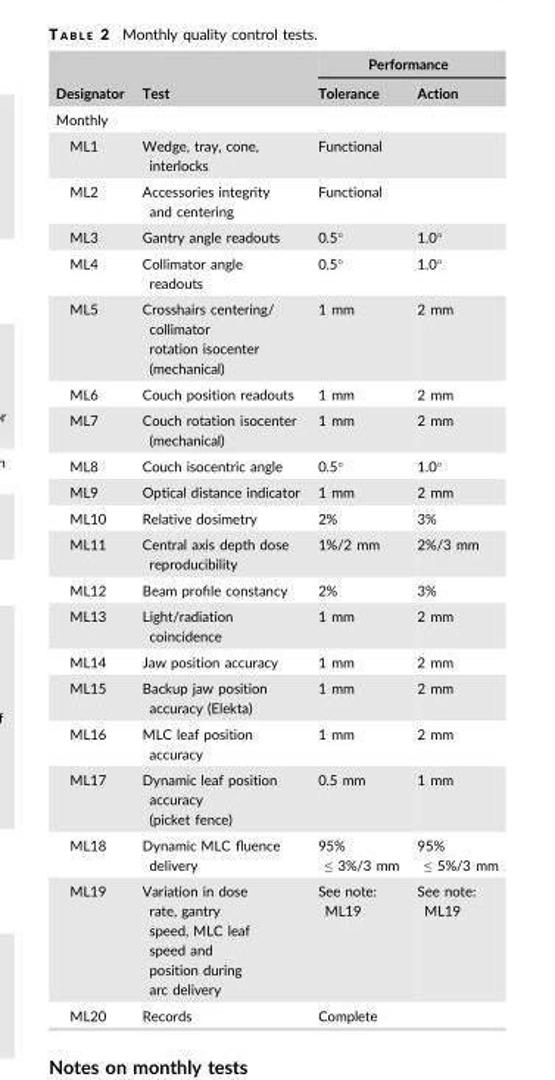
<table><thead><tr><td rowspan="2">Designator</td><td rowspan="2">Test</td><td colspan="2">Performance</td></tr><tr><td>Tolerance</td><td>Action</td></tr></thead><tbody><tr><td colspan="4">Monthly</td></tr><tr><td>ML1</td><td>Wedge, tray, cone, interlocks</td><td colspan="2">Functional</td></tr><tr><td>ML2</td><td>Accessories integrity and centering</td><td colspan="2">Functional</td></tr><tr><td>ML3</td><td>Gantry angle readouts</td><td>0.5°</td><td>1.0°</td></tr><tr><td>ML4</td><td>Collimator angle readouts</td><td>0.5°</td><td>1.0°</td></tr><tr><td>ML5</td><td>Crosshairs centering/ collimator rotation isocenter (mechanical)</td><td>1 mm</td><td>2 mm</td></tr><tr><td>ML6</td><td>Couch position readouts</td><td>1 mm</td><td>2 mm</td></tr><tr><td>ML7</td><td>Couch rotation isocenter (mechanical)</td><td>1 mm</td><td>2 mm</td></tr><tr><td>ML8</td><td>Couch isocentric angle</td><td>0.5°</td><td>1.0°</td></tr><tr><td>ML9</td><td>Optical distance indicator</td><td>1 mm</td><td>2 mm</td></tr><tr><td>ML10</td><td>Relative dosimetry</td><td>2%</td><td>3%</td></tr><tr><td>ML11</td><td>Central axis depth dose reproducibility</td><td>1%/2 mm</td><td>2%/3 mm</td></tr><tr><td>ML12</td><td>Beam profile constancy</td><td>2%</td><td>3%</td></tr><tr><td>ML13</td><td>Light/radiation coincidence</td><td>1 mm</td><td>2 mm</td></tr><tr><td>ML14</td><td>Jaw position accuracy</td><td>1 mm</td><td>2 mm</td></tr><tr><td>ML15</td><td>Backup jaw position accuracy (Elekta)</td><td>1 mm</td><td>2 mm</td></tr><tr><td>ML16</td><td>MLC leaf position accuracy</td><td>1 mm</td><td>2 mm</td></tr><tr><td>ML17</td><td>Dynamic leaf position accuracy (picket fence)</td><td>0.5 mm</td><td>1 mm</td></tr><tr><td>ML18</td><td>Dynamic MLC fluence delivery</td><td>95% ≤ 3%/3 mm</td><td>95% ≤ 5%/3 mm</td></tr><tr><td>ML19</td><td>Variation in dose rate, gantry speed, MLC leaf speed and position during arc delivery</td><td>See note: ML19</td><td>See note: ML19</td></tr><tr><td>ML20</td><td>Records</td><td colspan="2">Complete</td></tr></tbody></table>